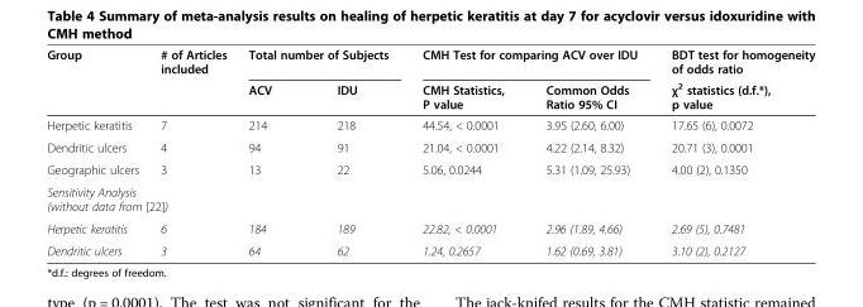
<table><thead><tr><td rowspan="2">Group</td><td rowspan="2"># of Articles included</td><td colspan="2">Total number of Subjects</td><td colspan="2">CMH Test for comparing ACV over IDU</td><td rowspan="2">BDT test for homogeneity of odds ratio χ<sup>2</sup> statistics (d.f.*), p value</td></tr><tr><td>ACV</td><td>IDU</td><td>CMH Statistics, P value</td><td>Common Odds Ratio 95% CI</td></tr></thead><tbody><tr><td>Herpetic keratitis</td><td>7</td><td>214</td><td>218</td><td>44.54, &lt; 0.0001</td><td>3.95 (2.60, 6.00)</td><td>17.65 (6), 0.0072</td></tr><tr><td>Dendritic ulcers</td><td>4</td><td>94</td><td>91</td><td>21.04, &lt; 0.0001</td><td>4.22 (2.14, 8.32)</td><td>20.71 (3), 0.0001</td></tr><tr><td>Geographic ulcers</td><td>3</td><td>13</td><td>22</td><td>5.06, 0.0244</td><td>5.31 (1.09, 25.93)</td><td>4.00 (2), 0.1350</td></tr><tr><td colspan="7">Sensitivity Analysis (without data from [22])</td></tr><tr><td>Herpetic keratitis</td><td>6</td><td>184</td><td>189</td><td>22.82, &lt; 0.0001</td><td>2.96 (1.89, 4.66)</td><td>2.69 (5), 0.7481</td></tr><tr><td>Dendritic ulcers</td><td>3</td><td>64</td><td>62</td><td>1.24, 0.2657</td><td>1.62 (0.69, 3.81)</td><td>3.10 (2), 0.2127</td></tr></tbody></table>